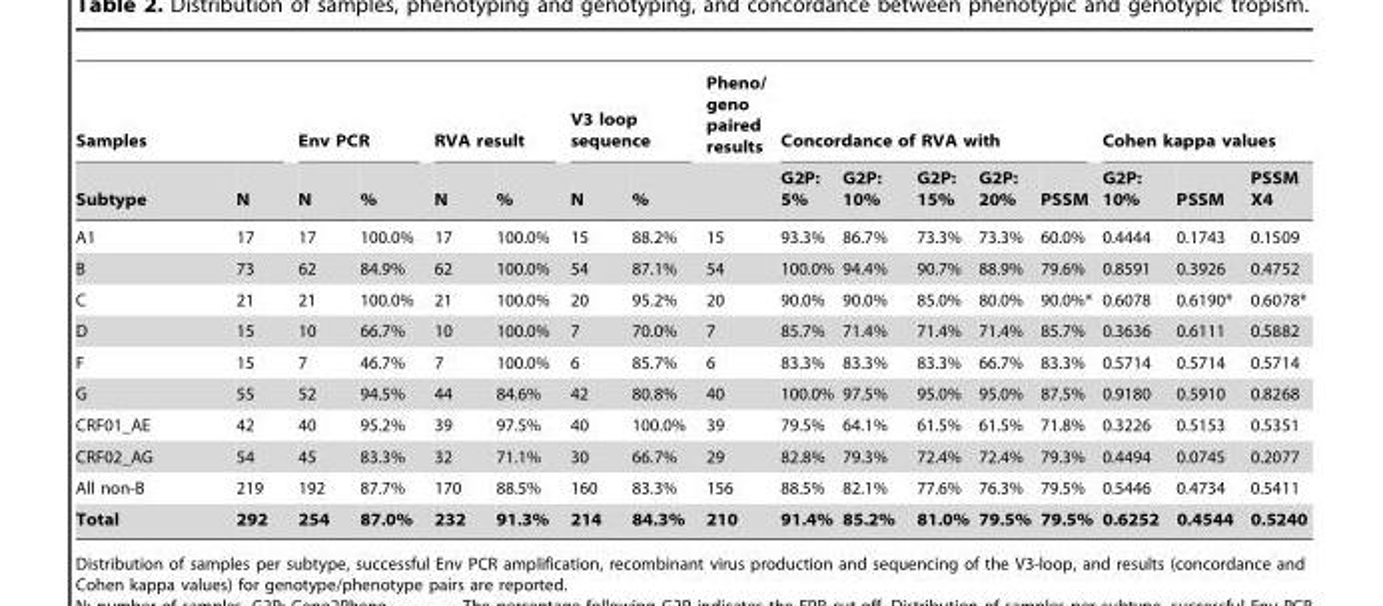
<table><thead><tr><td colspan="2">Samples</td><td colspan="2">Env PCR</td><td colspan="2">RVA result</td><td colspan="2">V3 loop sequence</td><td rowspan="2">Pheno/ geno paired results</td><td colspan="5">Concordance of RVA with</td><td colspan="3">Cohen kappa values</td></tr><tr><td>Subtype</td><td>N</td><td>N</td><td>%</td><td>N</td><td>%</td><td>N</td><td>%</td><td>G2P: 5%</td><td>G2P: 10%</td><td>G2P: 15%</td><td>G2P: 20%</td><td>PSSM</td><td>G2P: 10%</td><td>PSSM</td><td>PSSM X4</td></tr></thead><tbody><tr><td>A1</td><td>17</td><td>17</td><td>100.0%</td><td>17</td><td>100.0%</td><td>15</td><td>88.2%</td><td>15</td><td>93.3%</td><td>86.7%</td><td>73.3%</td><td>73.3%</td><td>60.0%</td><td>0.4444</td><td>0.1743</td><td>0.1509</td></tr><tr><td>B</td><td>73</td><td>62</td><td>84.9%</td><td>62</td><td>100.0%</td><td>54</td><td>87.1%</td><td>54</td><td>100.0%</td><td>94.4%</td><td>90.7%</td><td>88.9%</td><td>79.6%</td><td>0.8591</td><td>0.3926</td><td>0.4752</td></tr><tr><td>C</td><td>21</td><td>21</td><td>100.0%</td><td>21</td><td>100.0%</td><td>20</td><td>95.2%</td><td>20</td><td>90.0%</td><td>90.0%</td><td>85.0%</td><td>80.0%</td><td>90.0%*</td><td>0.6078</td><td>0.6190*</td><td>0.6078*</td></tr><tr><td>D</td><td>15</td><td>10</td><td>66.7%</td><td>10</td><td>100.0%</td><td>7</td><td>70.0%</td><td>7</td><td>85.7%</td><td>71.4%</td><td>71.4%</td><td>71.4%</td><td>85.7%</td><td>0.3636</td><td>0.6111</td><td>0.5882</td></tr><tr><td>F</td><td>15</td><td>7</td><td>46.7%</td><td>7</td><td>100.0%</td><td>6</td><td>85.7%</td><td>6</td><td>83.3%</td><td>83.3%</td><td>83.3%</td><td>66.7%</td><td>83.3%</td><td>0.5714</td><td>0.5714</td><td>0.5714</td></tr><tr><td>G</td><td>55</td><td>52</td><td>94.5%</td><td>44</td><td>84.6%</td><td>42</td><td>80.8%</td><td>40</td><td>100.0%</td><td>97.5%</td><td>95.0%</td><td>95.0%</td><td>87.5%</td><td>0.9180</td><td>0.5910</td><td>0.8268</td></tr><tr><td>CRF01_AE</td><td>42</td><td>40</td><td>95.2%</td><td>39</td><td>97.5%</td><td>40</td><td>100.0%</td><td>39</td><td>79.5%</td><td>64.1%</td><td>61.5%</td><td>61.5%</td><td>71.8%</td><td>0.3226</td><td>0.5153</td><td>0.5351</td></tr><tr><td>CRF02_AG</td><td>54</td><td>45</td><td>83.3%</td><td>32</td><td>71.1%</td><td>30</td><td>66.7%</td><td>29</td><td>82.8%</td><td>79.3%</td><td>72.4%</td><td>72.4%</td><td>79.3%</td><td>0.4494</td><td>0.0745</td><td>0.2077</td></tr><tr><td>All non-B</td><td>219</td><td>192</td><td>87.7%</td><td>170</td><td>88.5%</td><td>160</td><td>83.3%</td><td>156</td><td>88.5%</td><td>82.1%</td><td>77.6%</td><td>76.3%</td><td>79.5%</td><td>0.5446</td><td>0.4734</td><td>0.5411</td></tr><tr><td>Total</td><td>292</td><td>254</td><td>87.0%</td><td>232</td><td>91.3%</td><td>214</td><td>84.3%</td><td>210</td><td>91.4%</td><td>85.2%</td><td>81.0%</td><td>79.5%</td><td>79.5%</td><td>0.6252</td><td>0.4544</td><td>0.5240</td></tr></tbody></table>